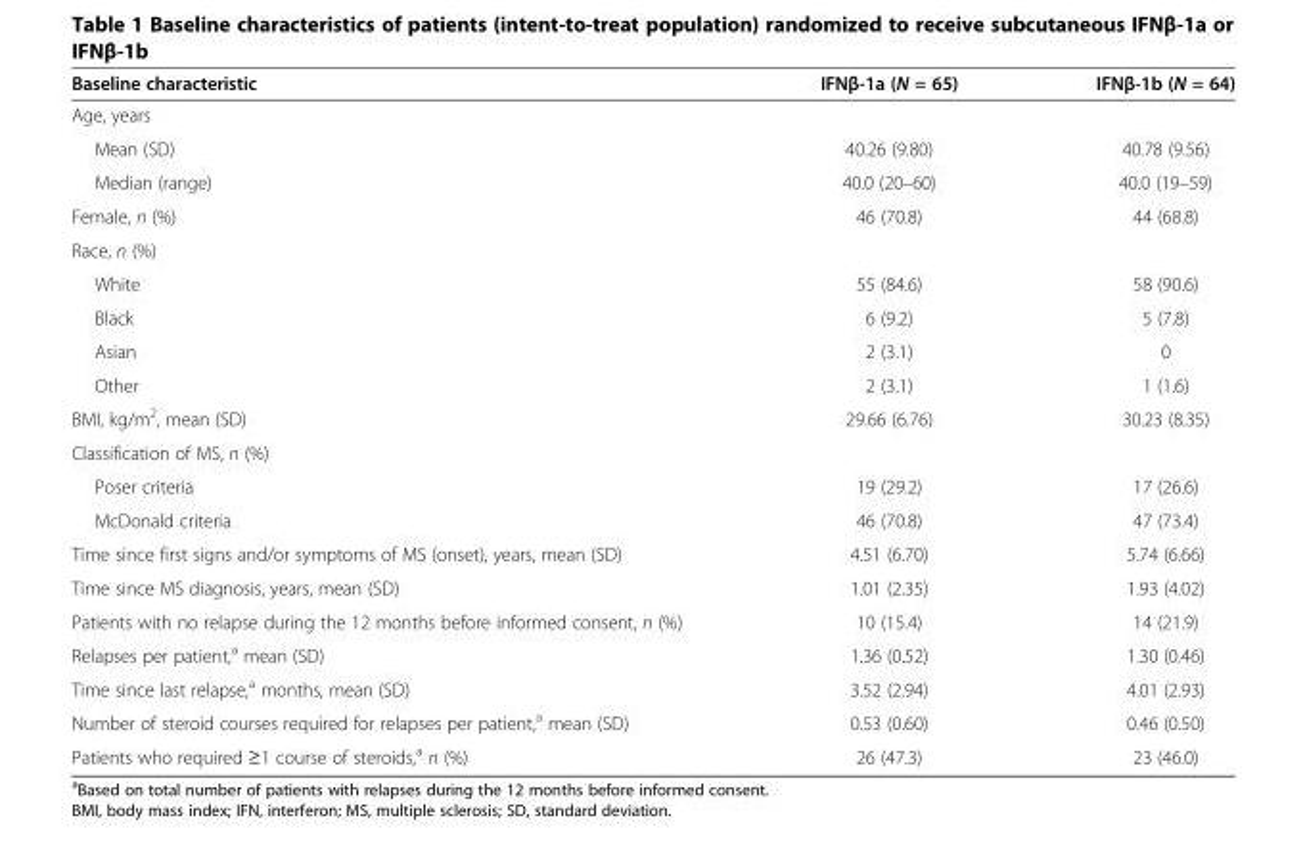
<table><thead><tr><td>Baseline characteristic</td><td>IFNβ-1a (N = 65)</td><td>IFNβ-1b (N = 64)</td></tr></thead><tbody><tr><td colspan="3">Age, years</td></tr><tr><td>Mean (SD)</td><td>40.26 (9.80)</td><td>40.78 (9.56)</td></tr><tr><td>Median (range)</td><td>40.0 (20–60)</td><td>40.0 (19–59)</td></tr><tr><td>Female, n (%)</td><td>46 (70.8)</td><td>44 (68.8)</td></tr><tr><td colspan="3">Race, n (%)</td></tr><tr><td>White</td><td>55 (84.6)</td><td>58 (90.6)</td></tr><tr><td>Black</td><td>6 (9.2)</td><td>5 (7.8)</td></tr><tr><td>Asian</td><td>2 (3.1)</td><td>0</td></tr><tr><td>Other</td><td>2 (3.1)</td><td>1 (1.6)</td></tr><tr><td>BMI, kg/m<sup>2</sup>, mean (SD)</td><td>29.66 (6.76)</td><td>30.23 (8.35)</td></tr><tr><td colspan="3">Classification of MS, n (%)</td></tr><tr><td>Poser criteria</td><td>19 (29.2)</td><td>17 (26.6)</td></tr><tr><td>McDonald criteria</td><td>46 (70.8)</td><td>47 (73.4)</td></tr><tr><td>Time since first signs and/or symptoms of MS (onset), years, mean (SD)</td><td>4.51 (6.70)</td><td>5.74 (6.66)</td></tr><tr><td>Time since MS diagnosis, years, mean (SD)</td><td>1.01 (2.35)</td><td>1.93 (4.02)</td></tr><tr><td>Patients with no relapse during the 12 months before informed consent, n (%)</td><td>10 (15.4)</td><td>14 (21.9)</td></tr><tr><td>Relapses per patient,<sup>a</sup> mean (SD)</td><td>1.36 (0.52)</td><td>1.30 (0.46)</td></tr><tr><td>Time since last relapse,<sup>a</sup> months, mean (SD)</td><td>3.52 (2.94)</td><td>4.01 (2.93)</td></tr><tr><td>Number of steroid courses required for relapses per patient,<sup>a</sup> mean (SD)</td><td>0.53 (0.60)</td><td>0.46 (0.50)</td></tr><tr><td>Patients who required ≥1 course of steroids,<sup>a</sup> n (%)</td><td>26 (47.3)</td><td>23 (46.0)</td></tr></tbody></table>